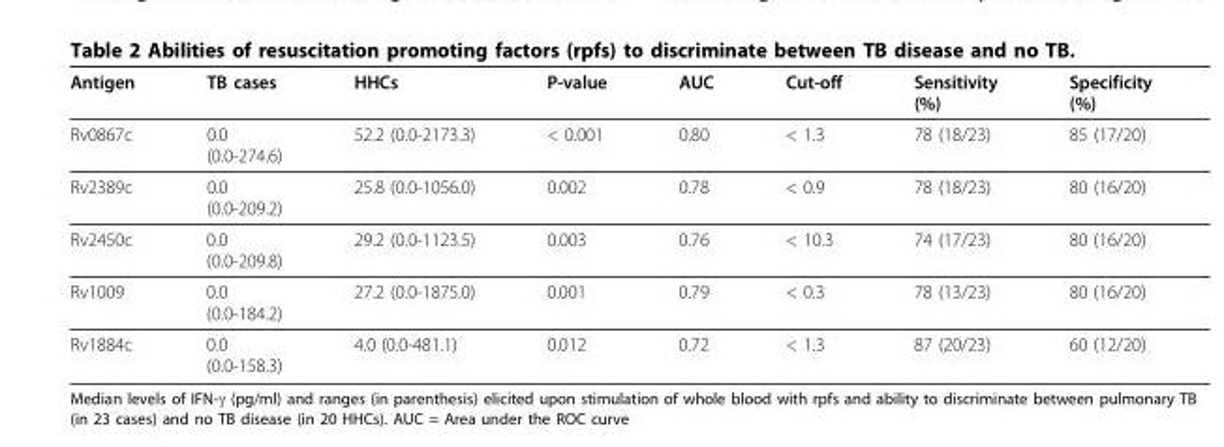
<table><thead><tr><td>Antigen</td><td>TB cases</td><td>HHCs</td><td>P-value</td><td>AUC</td><td>Cut-off</td><td>Sensitivity (%)</td><td>Specificity (%)</td></tr></thead><tbody><tr><td>Rv0867c</td><td>0.0 (0.0-274.6)</td><td>52.2 (0.0-2173.3)</td><td>&lt; 0.001</td><td>0.80</td><td>&lt; 1.3</td><td>78 (18/23)</td><td>85 (17/20)</td></tr><tr><td>Rv2389c</td><td>0.0 (0.0-209.2)</td><td>25.8 (0.0-1056.0)</td><td>0.002</td><td>0.78</td><td>&lt; 0.9</td><td>78 (18/23)</td><td>80 (16/20)</td></tr><tr><td>Rv2450c</td><td>0.0 (0.0-209.8)</td><td>29.2 (0.0-1123.5)</td><td>0.003</td><td>0.76</td><td>&lt; 10.3</td><td>74 (17/23)</td><td>80 (16/20)</td></tr><tr><td>Rv1009</td><td>0.0 (0.0-184.2)</td><td>27.2 (0.0-1875.0)</td><td>0.001</td><td>0.79</td><td>&lt; 0.3</td><td>78 (13/23)</td><td>80 (16/20)</td></tr><tr><td>Rv1884c</td><td>0.0 (0.0-158.3)</td><td>4.0 (0.0-481.1)</td><td>0.012</td><td>0.72</td><td>&lt; 1.3</td><td>87 (20/23)</td><td>60 (12/20)</td></tr></tbody></table>